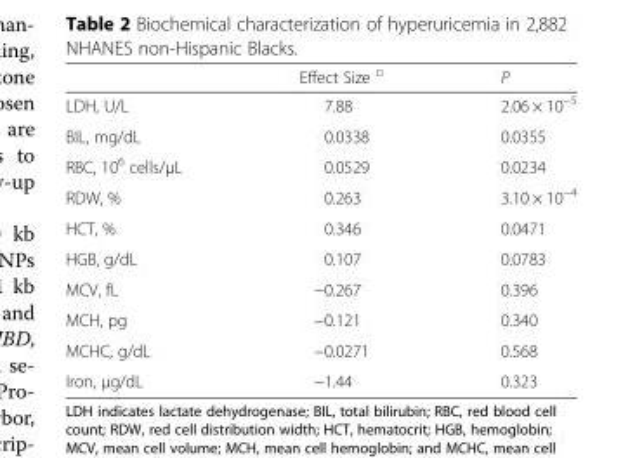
<table><thead><tr><td></td><td>Effect Size <sup>□</sup></td><td>P</td></tr></thead><tbody><tr><td>LDH, U/L</td><td>7.88</td><td>2.06 × 10<sup>−5</sup></td></tr><tr><td>BIL, mg/dL</td><td>0.0338</td><td>0.0355</td></tr><tr><td>RBC, 10<sup>6</sup> cells/μL</td><td>0.0529</td><td>0.0234</td></tr><tr><td>RDW, %</td><td>0.263</td><td>3.10 × 10<sup>−4</sup></td></tr><tr><td>HCT, %</td><td>0.346</td><td>0.0471</td></tr><tr><td>HGB, g/dL</td><td>0.107</td><td>0.0783</td></tr><tr><td>MCV, fL</td><td>−0.267</td><td>0.396</td></tr><tr><td>MCH, pg</td><td>−0.121</td><td>0.340</td></tr><tr><td>MCHC, g/dL</td><td>−0.0271</td><td>0.568</td></tr><tr><td>Iron, μg/dL</td><td>−1.44</td><td>0.323</td></tr></tbody></table>